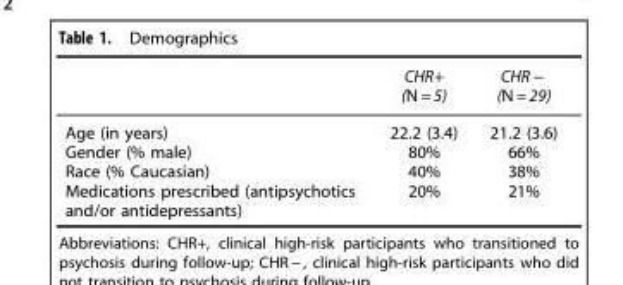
<table><thead><tr><td></td><td>CHR+ (N = 5)</td><td>CHR − (N = 29)</td></tr></thead><tbody><tr><td>Age (in years)</td><td>22.2 (3.4)</td><td>21.2 (3.6)</td></tr><tr><td>Gender (% male)</td><td>80%</td><td>66%</td></tr><tr><td>Race (% Caucasian)</td><td>40%</td><td>38%</td></tr><tr><td>Medications prescribed (antipsychotics and/or antidepressants)</td><td>20%</td><td>21%</td></tr></tbody></table>